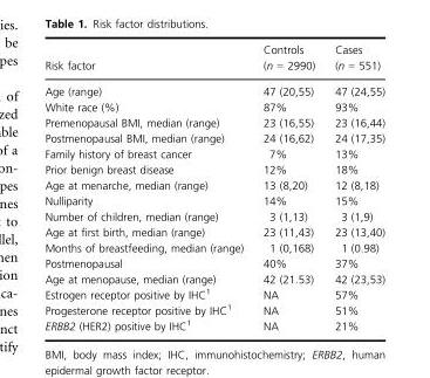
<table><thead><tr><td>Risk factor</td><td>Controls (n = 2990)</td><td>Cases (n = 551)</td></tr></thead><tbody><tr><td>Age (range)</td><td>47 (20,55)</td><td>47 (24,55)</td></tr><tr><td>White race (%)</td><td>87%</td><td>93%</td></tr><tr><td>Premenopausal BMI, median (range)</td><td>23 (16,55)</td><td>23 (16,44)</td></tr><tr><td>Postmenopausal BMI, median (range)</td><td>24 (16,62)</td><td>24 (17,35)</td></tr><tr><td>Family history of breast cancer</td><td>7%</td><td>13%</td></tr><tr><td>Prior benign breast disease</td><td>12%</td><td>18%</td></tr><tr><td>Age at menarche, median (range)</td><td>13 (8,20)</td><td>12 (8,18)</td></tr><tr><td>Nulliparity</td><td>14%</td><td>15%</td></tr><tr><td>Number of children, median (range)</td><td>3 (1,13)</td><td>3 (1,9)</td></tr><tr><td>Age at first birth, median (range)</td><td>23 (11,43)</td><td>23 (13,40)</td></tr><tr><td>Months of breastfeeding, median (range)</td><td>1 (0,168)</td><td>1 (0.98)</td></tr><tr><td>Postmenopausal</td><td>40%</td><td>37%</td></tr><tr><td>Age at menopause, median (range)</td><td>42 (21.53)</td><td>42 (23,53)</td></tr><tr><td>Estrogen receptor positive by IHC<sup>1</sup></td><td>NA</td><td>57%</td></tr><tr><td>Progesterone receptor positive by IHC<sup>1</sup></td><td>NA</td><td>51%</td></tr><tr><td>ERBB2 (HER2) positive by IHC<sup>1</sup></td><td>NA</td><td>21%</td></tr></tbody></table>